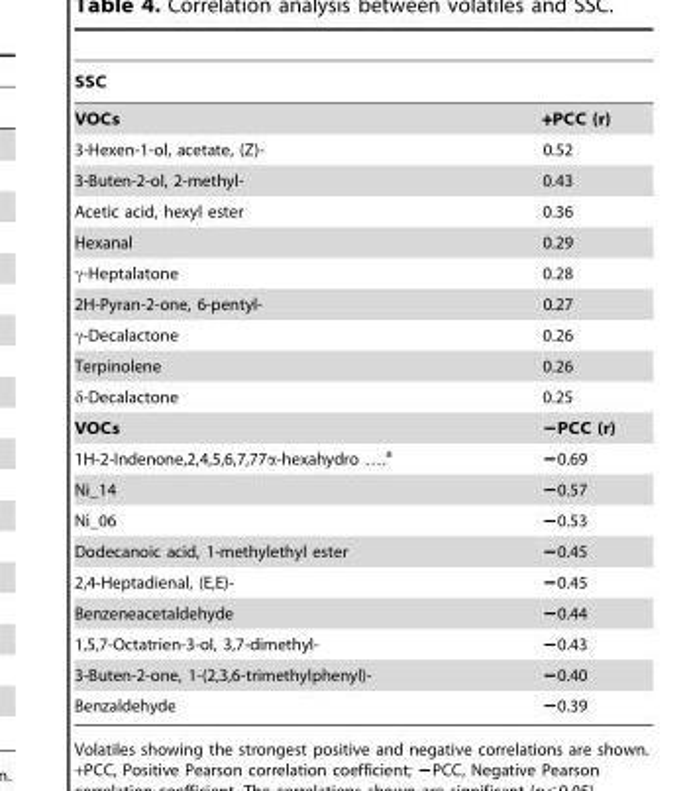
<table><thead><tr><td colspan="2">SSC</td></tr><tr><td>VOCs</td><td>+PCC (r)</td></tr></thead><tbody><tr><td>3-Hexen-1-ol, acetate, (Z)-</td><td>0.52</td></tr><tr><td>3-Buten-2-ol, 2-methyl-</td><td>0.43</td></tr><tr><td>Acetic acid, hexyl ester</td><td>0.36</td></tr><tr><td>Hexanal</td><td>0.29</td></tr><tr><td>γ-Heptalatone</td><td>0.28</td></tr><tr><td>2H-Pyran-2-one, 6-pentyl-</td><td>0.27</td></tr><tr><td>γ-Decalactone</td><td>0.26</td></tr><tr><td>Terpinolene</td><td>0.26</td></tr><tr><td>δ-Decalactone</td><td>0.25</td></tr><tr><td>VOCs</td><td>−PCC (r)</td></tr><tr><td>1H-2-Indenone,2,4,5,6,7,77α-hexahydro ….<sup>a</sup></td><td>−0.69</td></tr><tr><td>Ni_14</td><td>−0.57</td></tr><tr><td>Ni_06</td><td>−0.53</td></tr><tr><td>Dodecanoic acid, 1-methylethyl ester</td><td>−0.45</td></tr><tr><td>2,4-Heptadienal, (E,E)-</td><td>−0.45</td></tr><tr><td>Benzeneacetaldehyde</td><td>−0.44</td></tr><tr><td>1,5,7-Octatrien-3-ol, 3,7-dimethyl-</td><td>−0.43</td></tr><tr><td>3-Buten-2-one, 1-(2,3,6-trimethylphenyl)-</td><td>−0.40</td></tr><tr><td>Benzaldehyde</td><td>−0.39</td></tr></tbody></table>